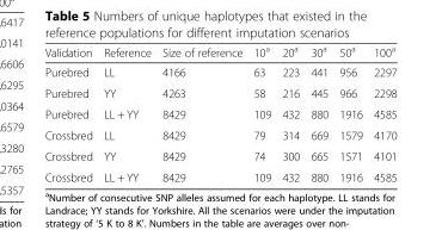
<table><thead><tr><td>Validation</td><td>Reference</td><td>Size of reference</td><td>10<sup>a</sup></td><td>20<sup>a</sup></td><td>30<sup>a</sup></td><td>50<sup>a</sup></td><td>100<sup>a</sup></td></tr></thead><tbody><tr><td>Purebred</td><td>LL</td><td>4166</td><td>63</td><td>223</td><td>441</td><td>956</td><td>2297</td></tr><tr><td>Purebred</td><td>YY</td><td>4263</td><td>58</td><td>216</td><td>445</td><td>966</td><td>2298</td></tr><tr><td>Purebred</td><td>LL + YY</td><td>8429</td><td>109</td><td>432</td><td>880</td><td>1916</td><td>4585</td></tr><tr><td>Crossbred</td><td>LL</td><td>8429</td><td>79</td><td>314</td><td>669</td><td>1579</td><td>4170</td></tr><tr><td>Crossbred</td><td>YY</td><td>8429</td><td>74</td><td>300</td><td>665</td><td>1571</td><td>4101</td></tr><tr><td>Crossbred</td><td>LL + YY</td><td>8429</td><td>109</td><td>432</td><td>880</td><td>1916</td><td>4585</td></tr></tbody></table>